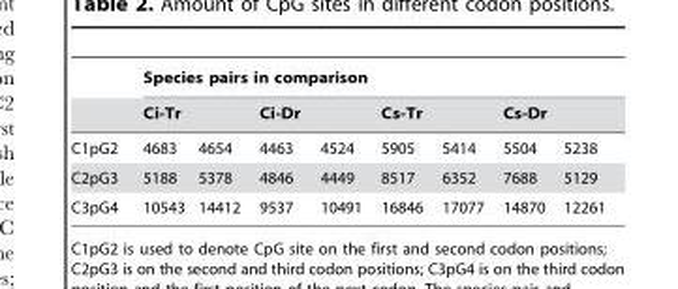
<table><thead><tr><td rowspan="3">C1pG2</td><td colspan="8">Species pairs in comparison</td></tr><tr><td colspan="2">Ci-Tr</td><td colspan="2">Ci-Dr</td><td colspan="2">Cs-Tr</td><td colspan="2">Cs-Dr</td></tr><tr><td>4683</td><td>4654</td><td>4463</td><td>4524</td><td>5905</td><td>5414</td><td>5504</td><td>5238</td></tr></thead><tbody><tr><td>C2pG3</td><td>5188</td><td>5378</td><td>4846</td><td>4449</td><td>8517</td><td>6352</td><td>7688</td><td>5129</td></tr><tr><td>C3pG4</td><td>10543</td><td>14412</td><td>9537</td><td>10491</td><td>16846</td><td>17077</td><td>14870</td><td>12261</td></tr></tbody></table>